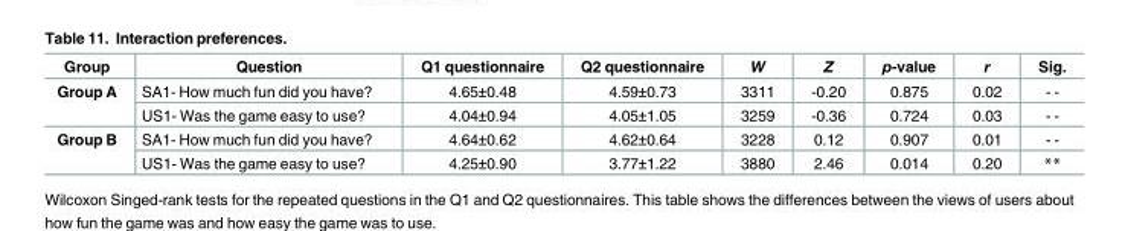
<table><thead><tr><td>Group</td><td>Question</td><td>Q1 questionnaire</td><td>Q2 questionnaire</td><td>W</td><td>Z</td><td>p-value</td><td>r</td><td>Sig.</td></tr></thead><tbody><tr><td rowspan="2">Group A</td><td>SA1- How much fun did you have?</td><td>4.65±0.48</td><td>4.59±0.73</td><td>3311</td><td>-0.20</td><td>0.875</td><td>0.02</td><td>- -</td></tr><tr><td>US1- Was the game easy to use?</td><td>4.04±0.94</td><td>4.05±1.05</td><td>3259</td><td>-0.36</td><td>0.724</td><td>0.03</td><td>- -</td></tr><tr><td rowspan="2">Group B</td><td>SA1- How much fun did you have?</td><td>4.64±0.62</td><td>4.62±0.64</td><td>3228</td><td>0.12</td><td>0.907</td><td>0.01</td><td>- -</td></tr><tr><td>US1- Was the game easy to use?</td><td>4.25±0.90</td><td>3.77±1.22</td><td>3880</td><td>2.46</td><td>0.014</td><td>0.20</td><td>**</td></tr></tbody></table>